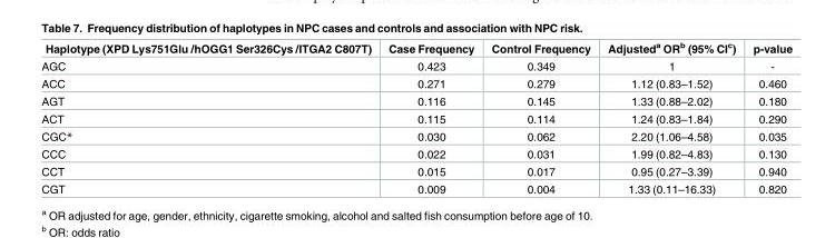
<table><thead><tr><td>Haplotype (XPD Lys751Glu /hOGG1 Ser326Cys /ITGA2 C807T)</td><td>Case Frequency</td><td>Control Frequency</td><td>Adjusted<sup>a</sup> OR<sup>b</sup> (95% CI<sup>c</sup>)</td><td>p-value</td></tr></thead><tbody><tr><td>AGC</td><td>0.423</td><td>0.349</td><td>1</td><td>-</td></tr><tr><td>ACC</td><td>0.271</td><td>0.279</td><td>1.12 (0.83–1.52)</td><td>0.460</td></tr><tr><td>AGT</td><td>0.116</td><td>0.145</td><td>1.33 (0.88–2.02)</td><td>0.180</td></tr><tr><td>ACT</td><td>0.115</td><td>0.114</td><td>1.24 (0.83–1.84)</td><td>0.290</td></tr><tr><td>CGC*</td><td>0.030</td><td>0.062</td><td>2.20 (1.06–4.58)</td><td>0.035</td></tr><tr><td>CCC</td><td>0.022</td><td>0.031</td><td>1.99 (0.82–4.83)</td><td>0.130</td></tr><tr><td>CCT</td><td>0.015</td><td>0.017</td><td>0.95 (0.27–3.39)</td><td>0.940</td></tr><tr><td>CGT</td><td>0.009</td><td>0.004</td><td>1.33 (0.11–16.33)</td><td>0.820</td></tr></tbody></table>